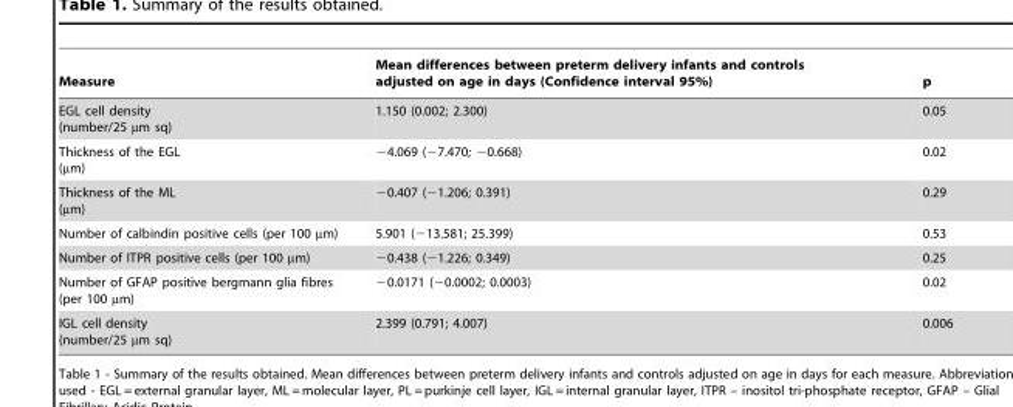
<table><thead><tr><td>Measure</td><td>Mean differences between preterm delivery infants and controls adjusted on age in days (Confidence interval 95%)</td><td>p</td></tr></thead><tbody><tr><td>EGL cell density (number/25 µm sq)</td><td>1.150 (0.002; 2.300)</td><td>0.05</td></tr><tr><td>Thickness of the EGL (µm)</td><td>−4.069 (−7.470; −0.668)</td><td>0.02</td></tr><tr><td>Thickness of the ML (µm)</td><td>−0.407 (−1.206; 0.391)</td><td>0.29</td></tr><tr><td>Number of calbindin positive cells (per 100 µm)</td><td>5.901 (−13.581; 25.399)</td><td>0.53</td></tr><tr><td>Number of ITPR positive cells (per 100 µm)</td><td>−0.438 (−1.226; 0.349)</td><td>0.25</td></tr><tr><td>Number of GFAP positive bergmann glia fibres (per 100 µm)</td><td>−0.0171 (−0.0002; 0.0003)</td><td>0.02</td></tr><tr><td>IGL cell density (number/25 µm sq)</td><td>2.399 (0.791; 4.007)</td><td>0.006</td></tr></tbody></table>